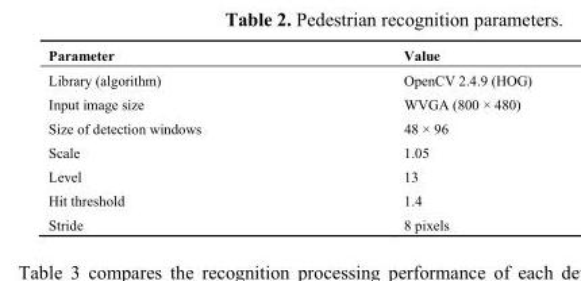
<table><thead><tr><td>Parameter</td><td>Value</td></tr></thead><tbody><tr><td>Library (algorithm)</td><td>OpenCV 2.4.9 (HOG)</td></tr><tr><td>Input image size</td><td>WVGA (800 × 480)</td></tr><tr><td>Size of detection windows</td><td>48 × 96</td></tr><tr><td>Scale</td><td>1.05</td></tr><tr><td>Level</td><td>13</td></tr><tr><td>Hit threshold</td><td>1.4</td></tr><tr><td>Stride</td><td>8 pixels</td></tr></tbody></table>